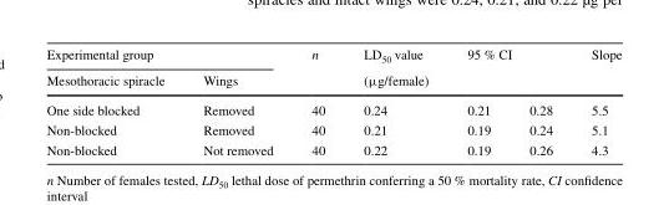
<table><thead><tr><td colspan="2">Experimental group</td><td rowspan="3">n 40</td><td rowspan="3">LD<sub>50</sub> value (μg/female) 0.24</td><td rowspan="2" colspan="2">95 % CI</td><td rowspan="3">Slope 5.5</td></tr><tr><td rowspan="2">Mesothoracic spiracle One side blocked</td><td rowspan="2">Wings Removed</td></tr><tr><td>0.21</td><td>0.28</td></tr></thead><tbody><tr><td>Non-blocked</td><td>Removed</td><td>40</td><td>0.21</td><td>0.19</td><td>0.24</td><td>5.1</td></tr><tr><td>Non-blocked</td><td>Not removed</td><td>40</td><td>0.22</td><td>0.19</td><td>0.26</td><td>4.3</td></tr></tbody></table>